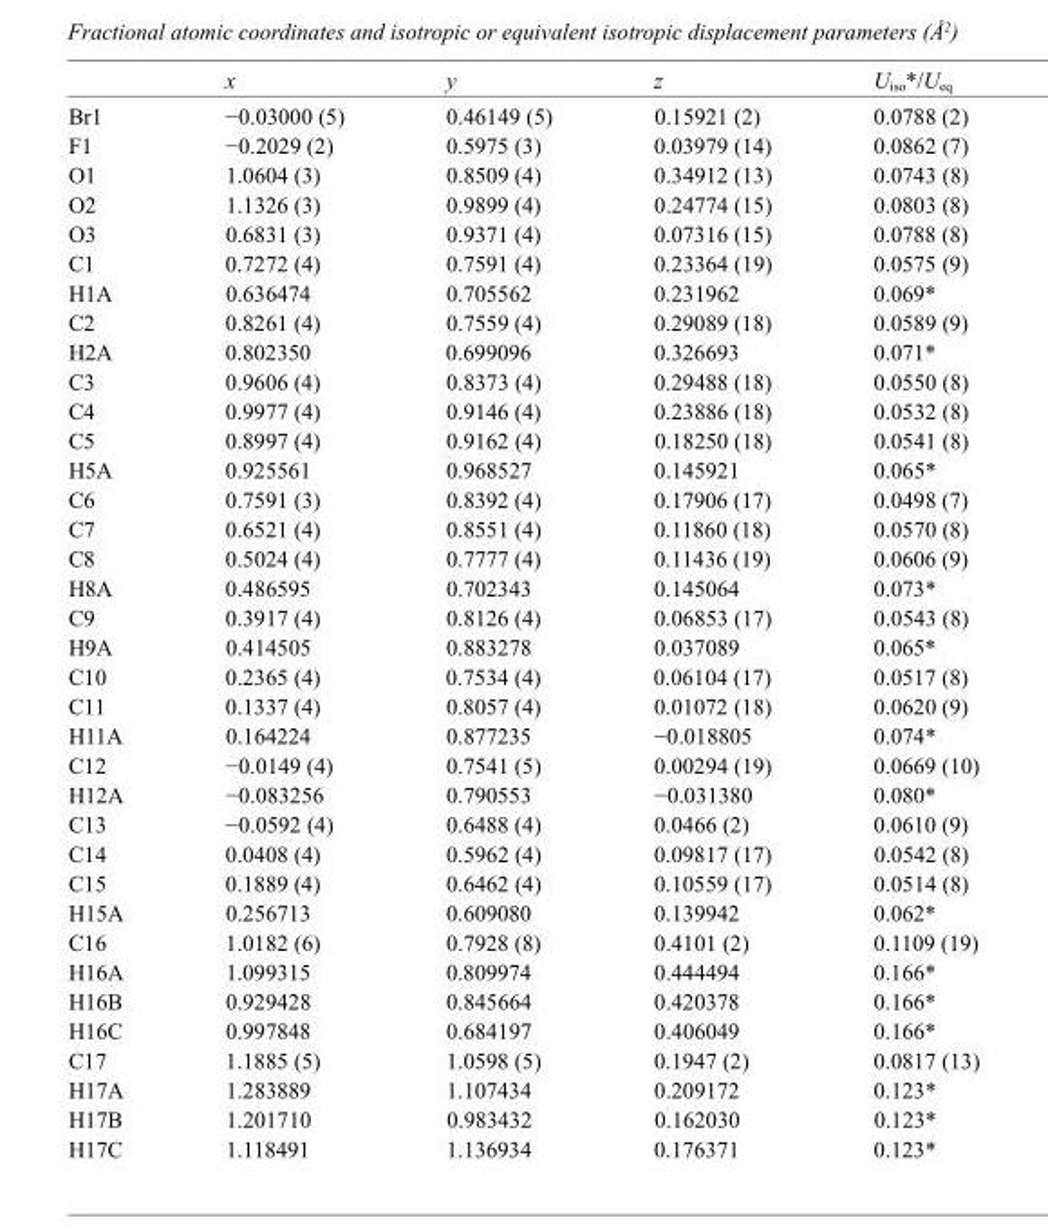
<table><thead><tr><td></td><td>x</td><td>y</td><td>z</td><td>U<sub>iso</sub>*/U<sub>eq</sub></td></tr></thead><tbody><tr><td>Br1</td><td>−0.03000 (5)</td><td>0.46149 (5)</td><td>0.15921 (2)</td><td>0.0788 (2)</td></tr><tr><td>F1</td><td>−0.2029 (2)</td><td>0.5975 (3)</td><td>0.03979 (14)</td><td>0.0862 (7)</td></tr><tr><td>O1</td><td>1.0604 (3)</td><td>0.8509 (4)</td><td>0.34912 (13)</td><td>0.0743 (8)</td></tr><tr><td>O2</td><td>1.1326 (3)</td><td>0.9899 (4)</td><td>0.24774 (15)</td><td>0.0803 (8)</td></tr><tr><td>O3</td><td>0.6831 (3)</td><td>0.9371 (4)</td><td>0.07316 (15)</td><td>0.0788 (8)</td></tr><tr><td>C1</td><td>0.7272 (4)</td><td>0.7591 (4)</td><td>0.23364 (19)</td><td>0.0575 (9)</td></tr><tr><td>H1A</td><td>0.636474</td><td>0.705562</td><td>0.231962</td><td>0.069*</td></tr><tr><td>C2</td><td>0.8261 (4)</td><td>0.7559 (4)</td><td>0.29089 (18)</td><td>0.0589 (9)</td></tr><tr><td>H2A</td><td>0.802350</td><td>0.699096</td><td>0.326693</td><td>0.071*</td></tr><tr><td>C3</td><td>0.9606 (4)</td><td>0.8373 (4)</td><td>0.29488 (18)</td><td>0.0550 (8)</td></tr><tr><td>C4</td><td>0.9977 (4)</td><td>0.9146 (4)</td><td>0.23886 (18)</td><td>0.0532 (8)</td></tr><tr><td>C5</td><td>0.8997 (4)</td><td>0.9162 (4)</td><td>0.18250 (18)</td><td>0.0541 (8)</td></tr><tr><td>H5A</td><td>0.925561</td><td>0.968527</td><td>0.145921</td><td>0.065*</td></tr><tr><td>C6</td><td>0.7591 (3)</td><td>0.8392 (4)</td><td>0.17906 (17)</td><td>0.0498 (7)</td></tr><tr><td>C7</td><td>0.6521 (4)</td><td>0.8551 (4)</td><td>0.11860 (18)</td><td>0.0570 (8)</td></tr><tr><td>C8</td><td>0.5024 (4)</td><td>0.7777 (4)</td><td>0.11436 (19)</td><td>0.0606 (9)</td></tr><tr><td>H8A</td><td>0.486595</td><td>0.702343</td><td>0.145064</td><td>0.073*</td></tr><tr><td>C9</td><td>0.3917 (4)</td><td>0.8126 (4)</td><td>0.06853 (17)</td><td>0.0543 (8)</td></tr><tr><td>H9A</td><td>0.414505</td><td>0.883278</td><td>0.037089</td><td>0.065*</td></tr><tr><td>C10</td><td>0.2365 (4)</td><td>0.7534 (4)</td><td>0.06104 (17)</td><td>0.0517 (8)</td></tr><tr><td>C11</td><td>0.1337 (4)</td><td>0.8057 (4)</td><td>0.01072 (18)</td><td>0.0620 (9)</td></tr><tr><td>H11A</td><td>0.164224</td><td>0.877235</td><td>−0.018805</td><td>0.074*</td></tr><tr><td>C12</td><td>−0.0149 (4)</td><td>0.7541 (5)</td><td>0.00294 (19)</td><td>0.0669 (10)</td></tr><tr><td>H12A</td><td>−0.083256</td><td>0.790553</td><td>−0.031380</td><td>0.080*</td></tr><tr><td>C13</td><td>−0.0592 (4)</td><td>0.6488 (4)</td><td>0.0466 (2)</td><td>0.0610 (9)</td></tr><tr><td>C14</td><td>0.0408 (4)</td><td>0.5962 (4)</td><td>0.09817 (17)</td><td>0.0542 (8)</td></tr><tr><td>C15</td><td>0.1889 (4)</td><td>0.6462 (4)</td><td>0.10559 (17)</td><td>0.0514 (8)</td></tr><tr><td>H15A</td><td>0.256713</td><td>0.609080</td><td>0.139942</td><td>0.062*</td></tr><tr><td>C16</td><td>1.0182 (6)</td><td>0.7928 (8)</td><td>0.4101 (2)</td><td>0.1109 (19)</td></tr><tr><td>H16A</td><td>1.099315</td><td>0.809974</td><td>0.444494</td><td>0.166*</td></tr><tr><td>H16B</td><td>0.929428</td><td>0.845664</td><td>0.420378</td><td>0.166*</td></tr><tr><td>H16C</td><td>0.997848</td><td>0.684197</td><td>0.406049</td><td>0.166*</td></tr><tr><td>C17</td><td>1.1885 (5)</td><td>1.0598 (5)</td><td>0.1947 (2)</td><td>0.0817 (13)</td></tr><tr><td>H17A</td><td>1.283889</td><td>1.107434</td><td>0.209172</td><td>0.123*</td></tr><tr><td>H17B</td><td>1.201710</td><td>0.983432</td><td>0.162030</td><td>0.123*</td></tr><tr><td>H17C</td><td>1.118491</td><td>1.136934</td><td>0.176371</td><td>0.123*</td></tr></tbody></table>